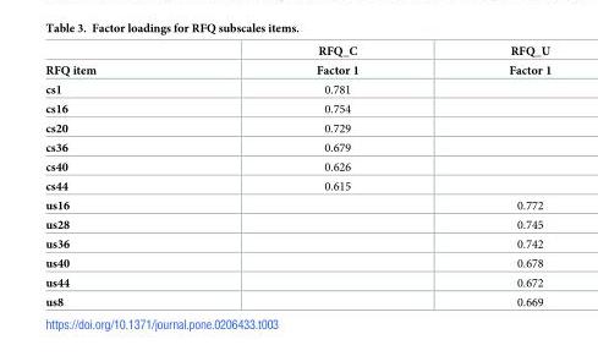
<table><thead><tr><td rowspan="2">RFQ item</td><td rowspan="2">RFQ_C Factor 1</td><td rowspan="2">RFQ_U Factor 1</td></tr><tr></tr></thead><tbody><tr><td>cs1</td><td>0.781</td><td></td></tr><tr><td>cs16</td><td>0.754</td><td></td></tr><tr><td>cs20</td><td>0.729</td><td></td></tr><tr><td>cs36</td><td>0.679</td><td></td></tr><tr><td>cs40</td><td>0.626</td><td></td></tr><tr><td>cs44</td><td>0.615</td><td></td></tr><tr><td>us16</td><td></td><td>0.772</td></tr><tr><td>us28</td><td></td><td>0.745</td></tr><tr><td>us36</td><td></td><td>0.742</td></tr><tr><td>us40</td><td></td><td>0.678</td></tr><tr><td>us44</td><td></td><td>0.672</td></tr><tr><td>us8</td><td></td><td>0.669</td></tr></tbody></table>